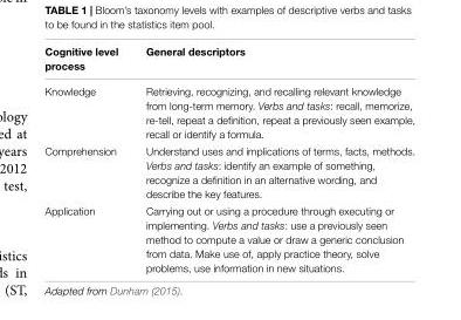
<table><thead><tr><td>Cognitive level process</td><td>General descriptors</td></tr></thead><tbody><tr><td>Knowledge</td><td>Retrieving, recognizing, and recalling relevant knowledge from long-term memory. Verbs and tasks: recall, memorize, re-tell, repeat a definition, repeat a previously seen example, recall or identify a formula.</td></tr><tr><td>Comprehension</td><td>Understand uses and implications of terms, facts, methods. Verbs and tasks: identify an example of something, recognize a definition in an alternative wording, and describe the key features.</td></tr><tr><td>Application</td><td>Carrying out or using a procedure through executing or implementing. Verbs and tasks: use a previously seen method to compute a value or draw a generic conclusion from data. Make use of, apply practice theory, solve problems, use information in new situations.</td></tr></tbody></table>